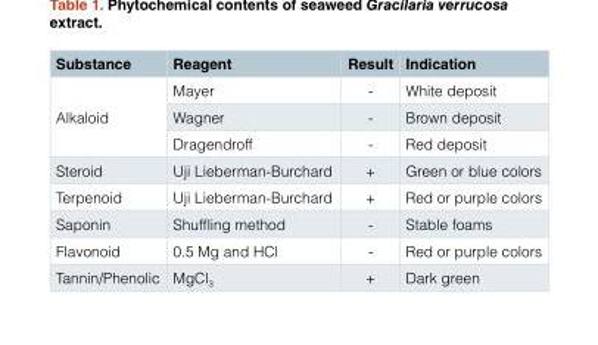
<table><thead><tr><td>Substance</td><td>Reagent</td><td>Result</td><td>Indication</td></tr></thead><tbody><tr><td rowspan="3">Alkaloid</td><td>Mayer</td><td>-</td><td>White deposit</td></tr><tr><td>Wagner</td><td>-</td><td>Brown deposit</td></tr><tr><td>Dragendroff</td><td>-</td><td>Red deposit</td></tr><tr><td>Steroid</td><td>Uji Lieberman-Burchard</td><td>+</td><td>Green or blue colors</td></tr><tr><td>Terpenoid</td><td>Uji Lieberman-Burchard</td><td>+</td><td>Red or purple colors</td></tr><tr><td>Saponin</td><td>Shuffling method</td><td>-</td><td>Stable foams</td></tr><tr><td>Flavonoid</td><td>0.5 Mg and HCl</td><td>-</td><td>Red or purple colors</td></tr><tr><td>Tannin/Phenolic</td><td>MgCl<sub>3</sub></td><td>+</td><td>Dark green</td></tr></tbody></table>